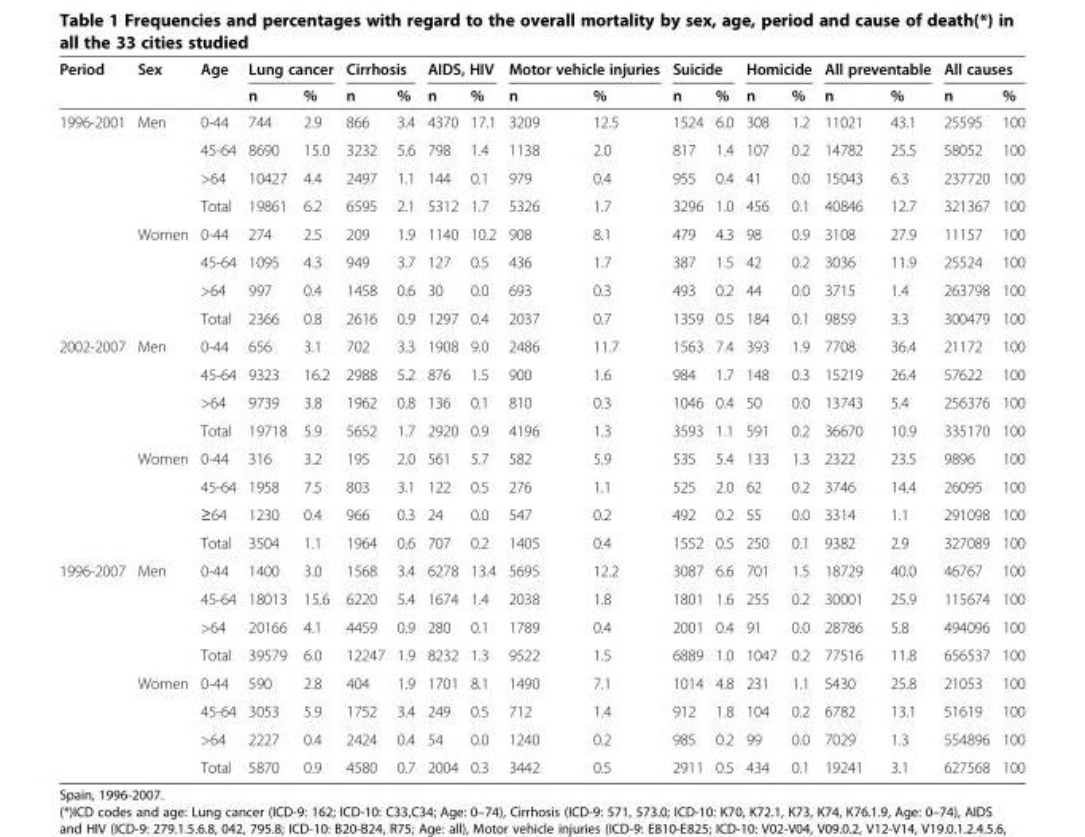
<table><thead><tr><td rowspan="2">Period</td><td rowspan="2">Sex</td><td rowspan="2">Age</td><td colspan="2">Lung cancer</td><td colspan="2">Cirrhosis</td><td colspan="2">AIDS, HIV</td><td colspan="2">Motor vehicle injuries</td><td colspan="2">Suicide</td><td colspan="2">Homicide</td><td colspan="2">All preventable</td><td colspan="2">All causes</td></tr><tr><td>n</td><td>%</td><td>n</td><td>%</td><td>n</td><td>%</td><td>n</td><td>%</td><td>n</td><td>%</td><td>n</td><td>%</td><td>n</td><td>%</td><td>n</td><td>%</td></tr></thead><tbody><tr><td rowspan="8">1996-2001</td><td>Men</td><td>0-44</td><td>744</td><td>2.9</td><td>866</td><td>3.4</td><td>4370</td><td>17.1</td><td>3209</td><td>12.5</td><td>1524</td><td>6.0</td><td>308</td><td>1.2</td><td>11021</td><td>43.1</td><td>25595</td><td>100</td></tr><tr><td></td><td>45-64</td><td>8690</td><td>15.0</td><td>3232</td><td>5.6</td><td>798</td><td>1.4</td><td>1138</td><td>2.0</td><td>817</td><td>1.4</td><td>107</td><td>0.2</td><td>14782</td><td>25.5</td><td>58052</td><td>100</td></tr><tr><td></td><td>&gt;64</td><td>10427</td><td>4.4</td><td>2497</td><td>1.1</td><td>144</td><td>0.1</td><td>979</td><td>0.4</td><td>955</td><td>0.4</td><td>41</td><td>0.0</td><td>15043</td><td>6.3</td><td>237720</td><td>100</td></tr><tr><td></td><td>Total</td><td>19861</td><td>6.2</td><td>6595</td><td>2.1</td><td>5312</td><td>1.7</td><td>5326</td><td>1.7</td><td>3296</td><td>1.0</td><td>456</td><td>0.1</td><td>40846</td><td>12.7</td><td>321367</td><td>100</td></tr><tr><td>Women</td><td>0-44</td><td>274</td><td>2.5</td><td>209</td><td>1.9</td><td>1140</td><td>10.2</td><td>908</td><td>8.1</td><td>479</td><td>4.3</td><td>98</td><td>0.9</td><td>3108</td><td>27.9</td><td>11157</td><td>100</td></tr><tr><td></td><td>45-64</td><td>1095</td><td>4.3</td><td>949</td><td>3.7</td><td>127</td><td>0.5</td><td>436</td><td>1.7</td><td>387</td><td>1.5</td><td>42</td><td>0.2</td><td>3036</td><td>11.9</td><td>25524</td><td>100</td></tr><tr><td></td><td>&gt;64</td><td>997</td><td>0.4</td><td>1458</td><td>0.6</td><td>30</td><td>0.0</td><td>693</td><td>0.3</td><td>493</td><td>0.2</td><td>44</td><td>0.0</td><td>3715</td><td>1.4</td><td>263798</td><td>100</td></tr><tr><td></td><td>Total</td><td>2366</td><td>0.8</td><td>2616</td><td>0.9</td><td>1297</td><td>0.4</td><td>2037</td><td>0.7</td><td>1359</td><td>0.5</td><td>184</td><td>0.1</td><td>9859</td><td>3.3</td><td>300479</td><td>100</td></tr><tr><td rowspan="8">2002-2007</td><td>Men</td><td>0-44</td><td>656</td><td>3.1</td><td>702</td><td>3.3</td><td>1908</td><td>9.0</td><td>2486</td><td>11.7</td><td>1563</td><td>7.4</td><td>393</td><td>1.9</td><td>7708</td><td>36.4</td><td>21172</td><td>100</td></tr><tr><td></td><td>45-64</td><td>9323</td><td>16.2</td><td>2988</td><td>5.2</td><td>876</td><td>1.5</td><td>900</td><td>1.6</td><td>984</td><td>1.7</td><td>148</td><td>0.3</td><td>15219</td><td>26.4</td><td>57622</td><td>100</td></tr><tr><td></td><td>&gt;64</td><td>9739</td><td>3.8</td><td>1962</td><td>0.8</td><td>136</td><td>0.1</td><td>810</td><td>0.3</td><td>1046</td><td>0.4</td><td>50</td><td>0.0</td><td>13743</td><td>5.4</td><td>256376</td><td>100</td></tr><tr><td></td><td>Total</td><td>19718</td><td>5.9</td><td>5652</td><td>1.7</td><td>2920</td><td>0.9</td><td>4196</td><td>1.3</td><td>3593</td><td>1.1</td><td>591</td><td>0.2</td><td>36670</td><td>10.9</td><td>335170</td><td>100</td></tr><tr><td>Women</td><td>0-44</td><td>316</td><td>3.2</td><td>195</td><td>2.0</td><td>561</td><td>5.7</td><td>582</td><td>5.9</td><td>535</td><td>5.4</td><td>133</td><td>1.3</td><td>2322</td><td>23.5</td><td>9896</td><td>100</td></tr><tr><td></td><td>45-64</td><td>1958</td><td>7.5</td><td>803</td><td>3.1</td><td>122</td><td>0.5</td><td>276</td><td>1.1</td><td>525</td><td>2.0</td><td>62</td><td>0.2</td><td>3746</td><td>14.4</td><td>26095</td><td>100</td></tr><tr><td></td><td>≥64</td><td>1230</td><td>0.4</td><td>966</td><td>0.3</td><td>24</td><td>0.0</td><td>547</td><td>0.2</td><td>492</td><td>0.2</td><td>55</td><td>0.0</td><td>3314</td><td>1.1</td><td>291098</td><td>100</td></tr><tr><td></td><td>Total</td><td>3504</td><td>1.1</td><td>1964</td><td>0.6</td><td>707</td><td>0.2</td><td>1405</td><td>0.4</td><td>1552</td><td>0.5</td><td>250</td><td>0.1</td><td>9382</td><td>2.9</td><td>327089</td><td>100</td></tr><tr><td rowspan="8">1996-2007</td><td>Men</td><td>0-44</td><td>1400</td><td>3.0</td><td>1568</td><td>3.4</td><td>6278</td><td>13.4</td><td>5695</td><td>12.2</td><td>3087</td><td>6.6</td><td>701</td><td>1.5</td><td>18729</td><td>40.0</td><td>46767</td><td>100</td></tr><tr><td></td><td>45-64</td><td>18013</td><td>15.6</td><td>6220</td><td>5.4</td><td>1674</td><td>1.4</td><td>2038</td><td>1.8</td><td>1801</td><td>1.6</td><td>255</td><td>0.2</td><td>30001</td><td>25.9</td><td>115674</td><td>100</td></tr><tr><td></td><td>&gt;64</td><td>20166</td><td>4.1</td><td>4459</td><td>0.9</td><td>280</td><td>0.1</td><td>1789</td><td>0.4</td><td>2001</td><td>0.4</td><td>91</td><td>0.0</td><td>28786</td><td>5.8</td><td>494096</td><td>100</td></tr><tr><td></td><td>Total</td><td>39579</td><td>6.0</td><td>12247</td><td>1.9</td><td>8232</td><td>1.3</td><td>9522</td><td>1.5</td><td>6889</td><td>1.0</td><td>1047</td><td>0.2</td><td>77516</td><td>11.8</td><td>656537</td><td>100</td></tr><tr><td>Women</td><td>0-44</td><td>590</td><td>2.8</td><td>404</td><td>1.9</td><td>1701</td><td>8.1</td><td>1490</td><td>7.1</td><td>1014</td><td>4.8</td><td>231</td><td>1.1</td><td>5430</td><td>25.8</td><td>21053</td><td>100</td></tr><tr><td></td><td>45-64</td><td>3053</td><td>5.9</td><td>1752</td><td>3.4</td><td>249</td><td>0.5</td><td>712</td><td>1.4</td><td>912</td><td>1.8</td><td>104</td><td>0.2</td><td>6782</td><td>13.1</td><td>51619</td><td>100</td></tr><tr><td></td><td>&gt;64</td><td>2227</td><td>0.4</td><td>2424</td><td>0.4</td><td>54</td><td>0.0</td><td>1240</td><td>0.2</td><td>985</td><td>0.2</td><td>99</td><td>0.0</td><td>7029</td><td>1.3</td><td>554896</td><td>100</td></tr><tr><td></td><td>Total</td><td>5870</td><td>0.9</td><td>4580</td><td>0.7</td><td>2004</td><td>0.3</td><td>3442</td><td>0.5</td><td>2911</td><td>0.5</td><td>434</td><td>0.1</td><td>19241</td><td>3.1</td><td>627568</td><td>100</td></tr></tbody></table>